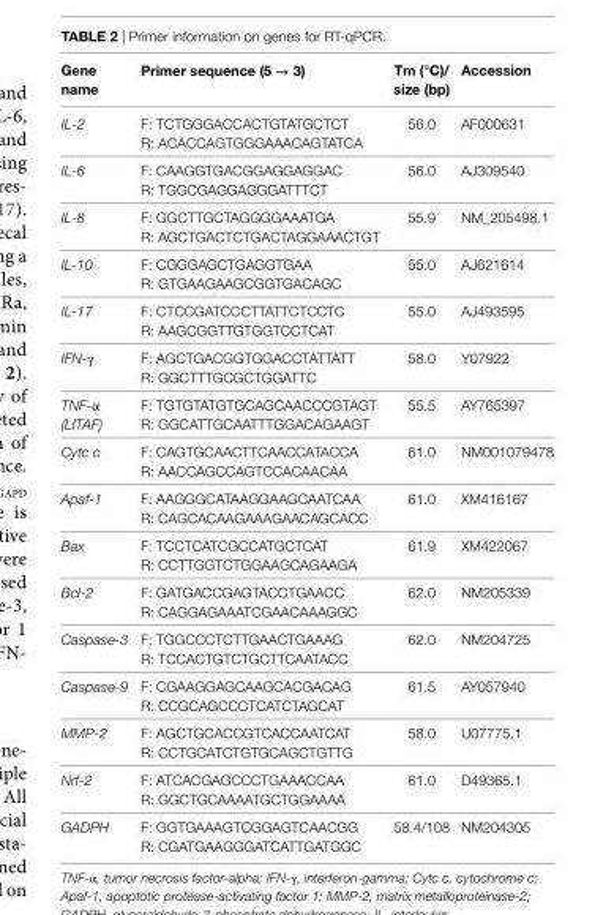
<table><thead><tr><td>gene name</td><td>Primer sequence (5 → 3)</td><td>Tm (°c)/ size (bp)</td><td>accession</td></tr></thead><tbody><tr><td>IL-2</td><td>F: TCTGGGACCACTGTATGCTCT R: ACACCAGTGGGAAACAGTATCA</td><td>56.0</td><td>AF000631</td></tr><tr><td>IL-6</td><td>F: CAAGGTGACGGAGGAGGAC R: TGGCGAGGAGGGATTTCT</td><td>56.0</td><td>AJ309540</td></tr><tr><td>IL-8</td><td>F: GGCTTGCTAGGGGAAATGA R: AGCTGACTCTGACTAGGAAACTGT</td><td>55.9</td><td>NM_205498.1</td></tr><tr><td>IL-10</td><td>F: CGGGAGCTGAGGTGAA R: GTGAAGAAGCGGTGACAGC</td><td>55.0</td><td>AJ621614</td></tr><tr><td>IL-17</td><td>F: CTCCGATCCCTTATTCTCCTC R: AAGCGGTTGTGGTCCTCAT</td><td>55.0</td><td>AJ493595</td></tr><tr><td>IFN-γ</td><td>F: AGCTGACGGTGGACCTATTATT R: GGCTTTGCGCTGGATTC</td><td>58.0</td><td>Y07922</td></tr><tr><td>TNF-α (LITAF)</td><td>F: TGTGTATGTGCAGCAACCCGTAGT R: GGCATTGCAATTTGGACAGAAGT</td><td>55.5</td><td>AY765397</td></tr><tr><td>Cytc c</td><td>F: CAGTGCAACTTCAACCATACCA R: AACCAGCCAGTCCACAACAA</td><td>61.0</td><td>NM001079478</td></tr><tr><td>Apaf-1</td><td>F: AAGGGCATAAGGAAGCAATCAA R: CAGCACAAGAAAGAACAGCACC</td><td>61.0</td><td>XM416167</td></tr><tr><td>Bax</td><td>F: TCCTCATCGCCATGCTCAT R: CCTTGGTCTGGAAGCAGAAGA</td><td>61.9</td><td>XM422067</td></tr><tr><td>Bcl-2</td><td>F: GATGACCGAGTACCTGAACC R: CAGGAGAAATCGAACAAAGGC</td><td>62.0</td><td>NM205339</td></tr><tr><td>Caspase-3</td><td>F: TGGCCCTCTTGAACTGAAAG R: TCCACTGTCTGCTTCAATACC</td><td>62.0</td><td>NM204725</td></tr><tr><td>Caspase-9</td><td>F: CGAAGGAGCAAGCACGACAG R: CCGCAGCCCTCATCTAGCAT</td><td>61.5</td><td>AY057940</td></tr><tr><td>MMP-2</td><td>F: AGCTGCACCGTCACCAATCAT R: CCTGCATCTGTGCAGCTGTTG</td><td>58.0</td><td>U07775.1</td></tr><tr><td>Nrf-2</td><td>F: ATCACGAGCCCTGAAACCAA R: GGCTGCAAAATGCTGGAAAA</td><td>61.0</td><td>D49365.1</td></tr><tr><td>GADPH</td><td>F: GGTGAAAGTCGGAGTCAACGG R: CGATGAAGGGATCATTGATGGC</td><td>58.4/108</td><td>NM204305</td></tr></tbody></table>